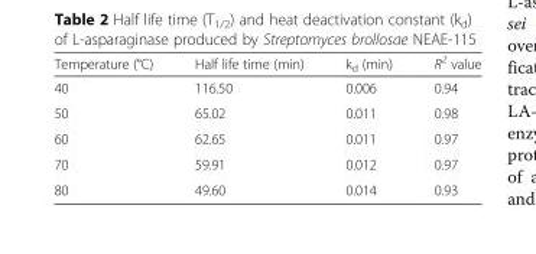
<table><thead><tr><td>Temperature (°C)</td><td>Half life time (min)</td><td>k<sub>d</sub> (min)</td><td>R<sup>2</sup> value</td></tr></thead><tbody><tr><td>40</td><td>116.50</td><td>0.006</td><td>0.94</td></tr><tr><td>50</td><td>65.02</td><td>0.011</td><td>0.98</td></tr><tr><td>60</td><td>62.65</td><td>0.011</td><td>0.97</td></tr><tr><td>70</td><td>59.91</td><td>0.012</td><td>0.97</td></tr><tr><td>80</td><td>49.60</td><td>0.014</td><td>0.93</td></tr></tbody></table>